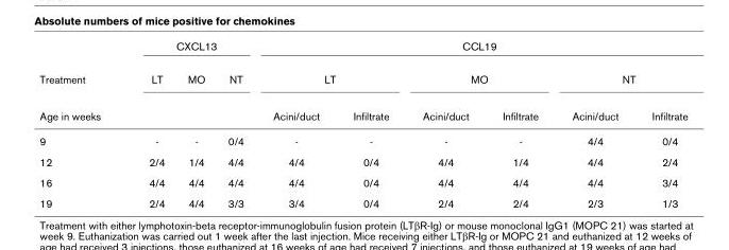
<table><thead><tr><td rowspan="3">Treatment Age in weeks</td><td colspan="3">CXCL13</td><td colspan="6">CCL19</td></tr><tr><td rowspan="2">LT</td><td rowspan="2">MO</td><td rowspan="2">NT</td><td colspan="2">LT</td><td colspan="2">MO</td><td colspan="2">NT</td></tr><tr><td>Acini/duct</td><td>Infiltrate</td><td>Acini/duct</td><td>Infiltrate</td><td>Acini/duct</td><td>Infiltrate</td></tr></thead><tbody><tr><td>9</td><td>-</td><td>-</td><td>0/4</td><td>-</td><td>-</td><td>-</td><td>-</td><td>4/4</td><td>0/4</td></tr><tr><td>12</td><td>2/4</td><td>1/4</td><td>4/4</td><td>4/4</td><td>0/4</td><td>4/4</td><td>1/4</td><td>4/4</td><td>2/4</td></tr><tr><td>16</td><td>4/4</td><td>4/4</td><td>4/4</td><td>4/4</td><td>0/4</td><td>4/4</td><td>4/4</td><td>4/4</td><td>3/4</td></tr><tr><td>19</td><td>2/4</td><td>4/4</td><td>3/3</td><td>3/4</td><td>0/4</td><td>2/4</td><td>2/4</td><td>2/3</td><td>1/3</td></tr></tbody></table>